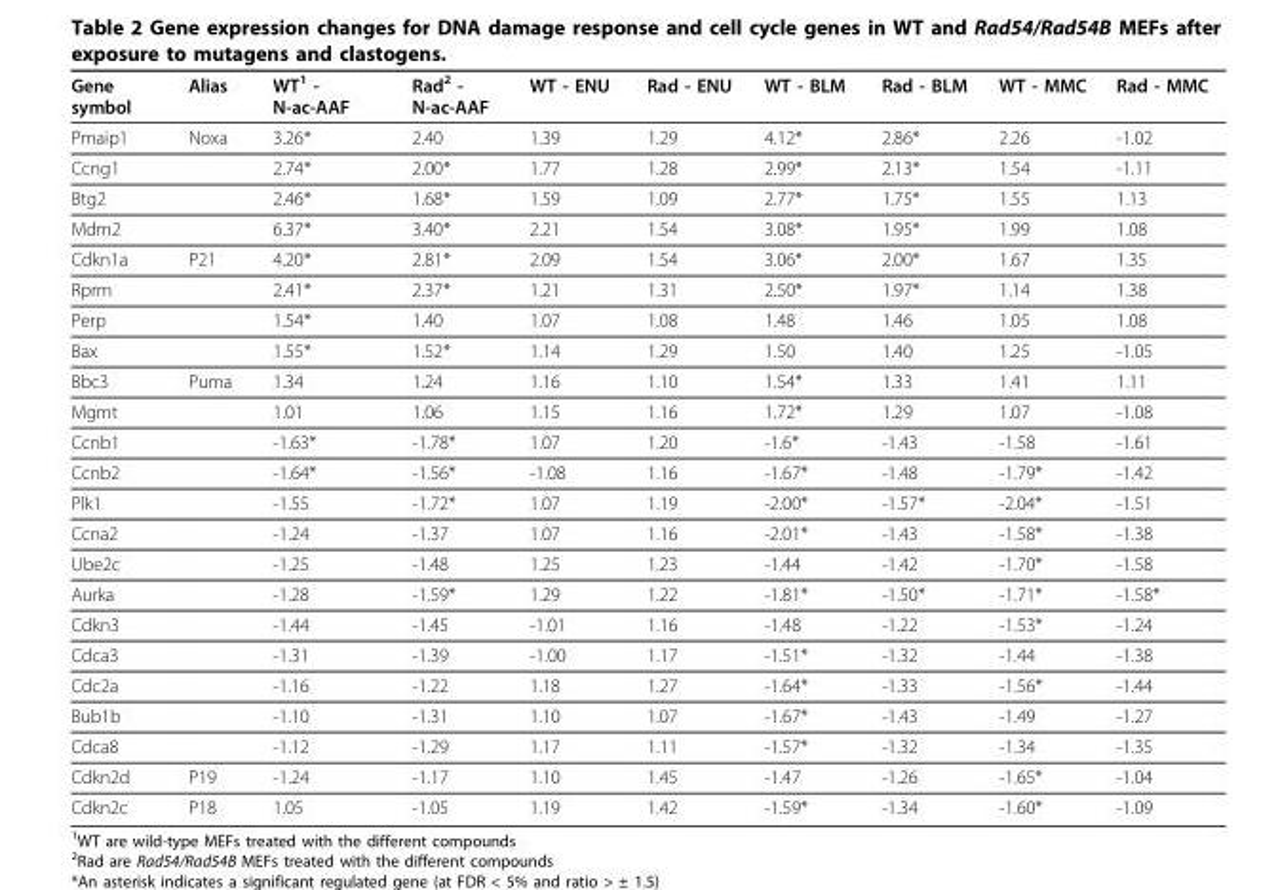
<table><thead><tr><td>Gene symbol</td><td>Alias</td><td>WT<sup>1</sup> - N-ac-AAF</td><td>Rad<sup>2</sup> - N-ac-AAF</td><td>WT - ENU</td><td>Rad - ENU</td><td>WT - BLM</td><td>Rad - BLM</td><td>WT - MMC</td><td>Rad - MMC</td></tr></thead><tbody><tr><td>Pmaip1</td><td>Noxa</td><td>3.26*</td><td>2.40</td><td>1.39</td><td>1.29</td><td>4.12*</td><td>2.86*</td><td>2.26</td><td>-1.02</td></tr><tr><td>Ccng1</td><td></td><td>2.74*</td><td>2.00*</td><td>1.77</td><td>1.28</td><td>2.99*</td><td>2.13*</td><td>1.54</td><td>-1.11</td></tr><tr><td>Btg2</td><td></td><td>2.46*</td><td>1.68*</td><td>1.59</td><td>1.09</td><td>2.77*</td><td>1.75*</td><td>1.55</td><td>1.13</td></tr><tr><td>Mdm2</td><td></td><td>6.37*</td><td>3.40*</td><td>2.21</td><td>1.54</td><td>3.08*</td><td>1.95*</td><td>1.99</td><td>1.08</td></tr><tr><td>Cdkn1a</td><td>P21</td><td>4.20*</td><td>2.81*</td><td>2.09</td><td>1.54</td><td>3.06*</td><td>2.00*</td><td>1.67</td><td>1.35</td></tr><tr><td>Rprm</td><td></td><td>2.41*</td><td>2.37*</td><td>1.21</td><td>1.31</td><td>2.50*</td><td>1.97*</td><td>1.14</td><td>1.38</td></tr><tr><td>Perp</td><td></td><td>1.54*</td><td>1.40</td><td>1.07</td><td>1.08</td><td>1.48</td><td>1.46</td><td>1.05</td><td>1.08</td></tr><tr><td>Bax</td><td></td><td>1.55*</td><td>1.52*</td><td>1.14</td><td>1.29</td><td>1.50</td><td>1.40</td><td>1.25</td><td>-1.05</td></tr><tr><td>Bbc3</td><td>Puma</td><td>1.34</td><td>1.24</td><td>1.16</td><td>1.10</td><td>1.54*</td><td>1.33</td><td>1.41</td><td>1.11</td></tr><tr><td>Mgmt</td><td></td><td>1.01</td><td>1.06</td><td>1.15</td><td>1.16</td><td>1.72*</td><td>1.29</td><td>1.07</td><td>-1.08</td></tr><tr><td>Ccnb1</td><td></td><td>-1.63*</td><td>-1.78*</td><td>1.07</td><td>1.20</td><td>-1.6*</td><td>-1.43</td><td>-1.58</td><td>-1.61</td></tr><tr><td>Ccnb2</td><td></td><td>-1.64*</td><td>-1.56*</td><td>-1.08</td><td>1.16</td><td>-1.67*</td><td>-1.48</td><td>-1.79*</td><td>-1.42</td></tr><tr><td>Plk1</td><td></td><td>-1.55</td><td>-1.72*</td><td>1.07</td><td>1.19</td><td>-2.00*</td><td>-1.57*</td><td>-2.04*</td><td>-1.51</td></tr><tr><td>Ccna2</td><td></td><td>-1.24</td><td>-1.37</td><td>1.07</td><td>1.16</td><td>-2.01*</td><td>-1.43</td><td>-1.58*</td><td>-1.38</td></tr><tr><td>Ube2c</td><td></td><td>-1.25</td><td>-1.48</td><td>1.25</td><td>1.23</td><td>-1.44</td><td>-1.42</td><td>-1.70*</td><td>-1.58</td></tr><tr><td>Aurka</td><td></td><td>-1.28</td><td>-1.59*</td><td>1.29</td><td>1.22</td><td>-1.81*</td><td>-1.50*</td><td>-1.71*</td><td>-1.58*</td></tr><tr><td>Cdkn3</td><td></td><td>-1.44</td><td>-1.45</td><td>-1.01</td><td>1.16</td><td>-1.48</td><td>-1.22</td><td>-1.53*</td><td>-1.24</td></tr><tr><td>Cdca3</td><td></td><td>-1.31</td><td>-1.39</td><td>-1.00</td><td>1.17</td><td>-1.51*</td><td>-1.32</td><td>-1.44</td><td>-1.38</td></tr><tr><td>Cdc2a</td><td></td><td>-1.16</td><td>-1.22</td><td>1.18</td><td>1.27</td><td>-1.64*</td><td>-1.33</td><td>-1.56*</td><td>-1.44</td></tr><tr><td>Bub1b</td><td></td><td>-1.10</td><td>-1.31</td><td>1.10</td><td>1.07</td><td>-1.67*</td><td>-1.43</td><td>-1.49</td><td>-1.27</td></tr><tr><td>Cdca8</td><td></td><td>-1.12</td><td>-1.29</td><td>1.17</td><td>1.11</td><td>-1.57*</td><td>-1.32</td><td>-1.34</td><td>-1.35</td></tr><tr><td>Cdkn2d</td><td>P19</td><td>-1.24</td><td>-1.17</td><td>1.10</td><td>1.45</td><td>-1.47</td><td>-1.26</td><td>-1.65*</td><td>-1.04</td></tr><tr><td>Cdkn2c</td><td>P18</td><td>1.05</td><td>-1.05</td><td>1.19</td><td>1.42</td><td>-1.59*</td><td>-1.34</td><td>-1.60*</td><td>-1.09</td></tr></tbody></table>